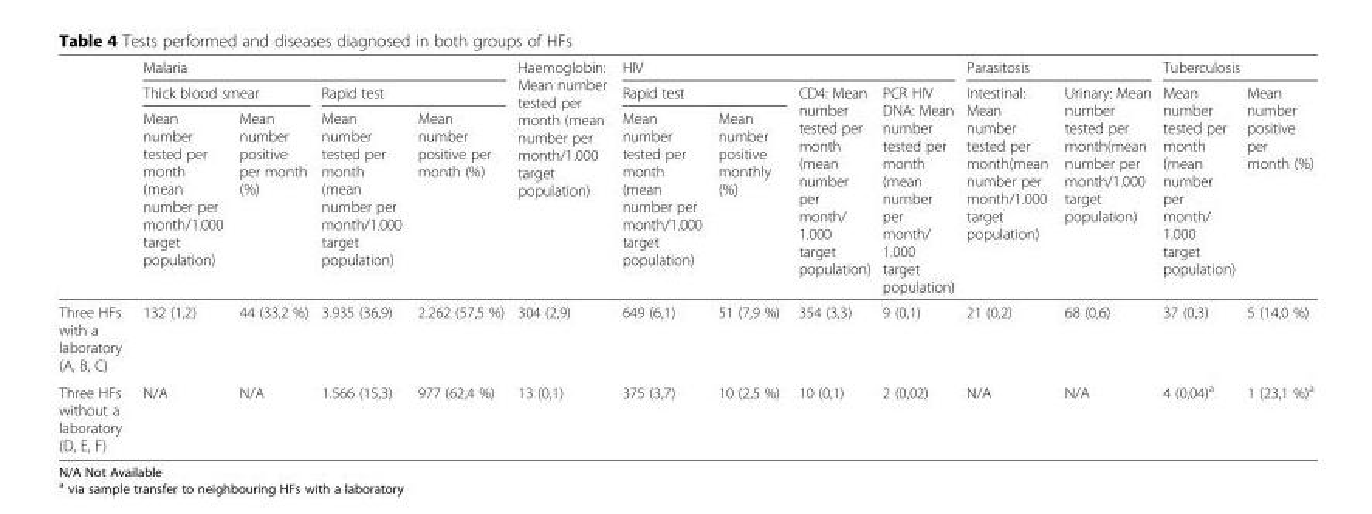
<table><thead><tr><td rowspan="3"></td><td colspan="4">Malaria</td><td rowspan="3">Haemoglobin: Mean number tested per month (mean number per month/1.000 target population)</td><td colspan="4">HIV</td><td colspan="2">Parasitosis</td><td colspan="2">Tuberculosis</td></tr><tr><td colspan="2">Thick blood smear</td><td colspan="2">Rapid test</td><td colspan="2">Rapid test</td><td rowspan="2">CD4: Mean number tested per month (mean number per month/ 1.000 target population)</td><td rowspan="2">PCR HIV DNA: Mean number tested per month (mean number per month/ 1.000 target population)</td><td rowspan="2">Intestinal: Mean number tested per month(mean number per month/1.000 target population)</td><td rowspan="2">Urinary: Mean number tested per month(mean number per month/1.000 target population)</td><td rowspan="2">Mean number tested per month (mean number per month/ 1.000 target population)</td><td rowspan="2">Mean number positive per month (%)</td></tr><tr><td>Mean number tested per month (mean number per month/1.000 target population)</td><td>Mean number positive per month (%)</td><td>Mean number tested per month (mean number per month/1.000 target population)</td><td>Mean number positive per month (%)</td><td>Mean number tested per month (mean number per month/1.000 target population)</td><td>Mean number positive monthly (%)</td></tr></thead><tbody><tr><td>Three HFs with a laboratory (A, B, C)</td><td>132 (1,2)</td><td>44 (33,2 %)</td><td>3.935 (36,9)</td><td>2.262 (57,5 %)</td><td>304 (2,9)</td><td>649 (6,1)</td><td>51 (7,9 %)</td><td>354 (3,3)</td><td>9 (0,1)</td><td>21 (0,2)</td><td>68 (0,6)</td><td>37 (0,3)</td><td>5 (14,0 %)</td></tr><tr><td>Three HFs without a laboratory (D, E, F)</td><td>N/A</td><td>N/A</td><td>1.566 (15,3)</td><td>977 (62,4 %)</td><td>13 (0,1)</td><td>375 (3,7)</td><td>10 (2,5 %)</td><td>10 (0,1)</td><td>2 (0,02)</td><td>N/A</td><td>N/A</td><td>4 (0,04)<sup>a</sup></td><td>1 (23,1 %)<sup>a</sup></td></tr></tbody></table>